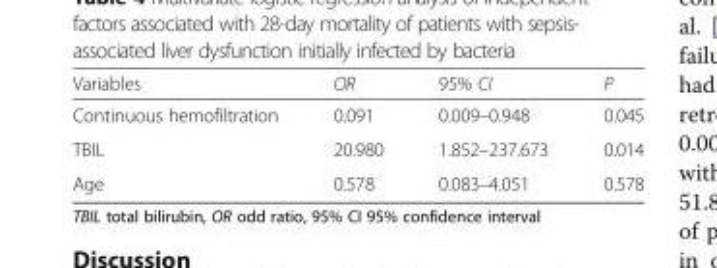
<table><thead><tr><td>Variables</td><td>OR</td><td>95% CI</td><td>P</td></tr></thead><tbody><tr><td>Continuous hemofiltration</td><td>0.091</td><td>0.009–0.948</td><td>0.045</td></tr><tr><td>TBIL</td><td>20.980</td><td>1.852–237.673</td><td>0.014</td></tr><tr><td>Age</td><td>0.578</td><td>0.083–4.051</td><td>0.578</td></tr></tbody></table>